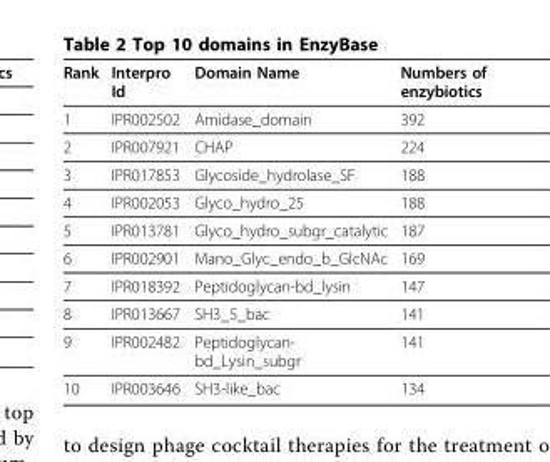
<table><thead><tr><td>Rank</td><td>Interpro Id</td><td>Domain Name</td><td>Numbers of enzybiotics</td></tr></thead><tbody><tr><td>1</td><td>IPR002502</td><td>Amidase_domain</td><td>392</td></tr><tr><td>2</td><td>IPR007921</td><td>CHAP</td><td>224</td></tr><tr><td>3</td><td>IPR017853</td><td>Glycoside_hydrolase_SF</td><td>188</td></tr><tr><td>4</td><td>IPR002053</td><td>Glyco_hydro_25</td><td>188</td></tr><tr><td>5</td><td>IPR013781</td><td>Glyco_hydro_subgr_catalytic</td><td>187</td></tr><tr><td>6</td><td>IPR002901</td><td>Mano_Glyc_endo_b_GlcNAc</td><td>169</td></tr><tr><td>7</td><td>IPR018392</td><td>Peptidoglycan-bd_lysin</td><td>147</td></tr><tr><td>8</td><td>IPR013667</td><td>SH3_5_bac</td><td>141</td></tr><tr><td>9</td><td>IPR002482</td><td>Peptidoglycan- bd_Lysin_subgr</td><td>141</td></tr><tr><td>10</td><td>IPR003646</td><td>SH3-like_bac</td><td>134</td></tr></tbody></table>